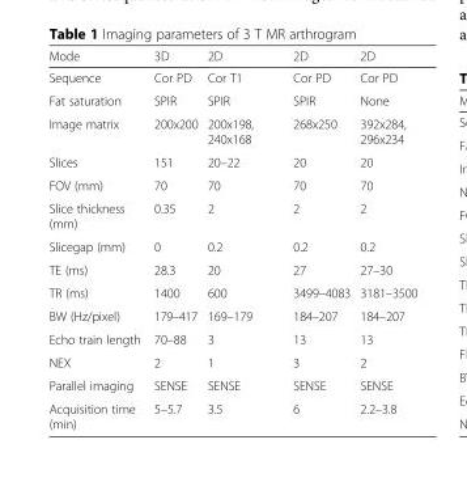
<table><thead><tr><td>Mode</td><td>3D</td><td>2D</td><td>2D</td><td>2D</td></tr></thead><tbody><tr><td>Sequence</td><td>Cor PD</td><td>Cor T1</td><td>Cor PD</td><td>Cor PD</td></tr><tr><td>Fat saturation</td><td>SPIR</td><td>SPIR</td><td>SPIR</td><td>None</td></tr><tr><td>Image matrix</td><td>200x200</td><td>200x198, 240x168</td><td>268x250</td><td>392x284, 296x234</td></tr><tr><td>Slices</td><td>151</td><td>20–22</td><td>20</td><td>20</td></tr><tr><td>FOV (mm)</td><td>70</td><td>70</td><td>70</td><td>70</td></tr><tr><td>Slice thickness (mm)</td><td>0.35</td><td>2</td><td>2</td><td>2</td></tr><tr><td>Slicegap (mm)</td><td>0</td><td>0.2</td><td>0.2</td><td>0.2</td></tr><tr><td>TE (ms)</td><td>28.3</td><td>20</td><td>27</td><td>27–30</td></tr><tr><td>TR (ms)</td><td>1400</td><td>600</td><td>3499–4083</td><td>3181–3500</td></tr><tr><td>BW (Hz/pixel)</td><td>179–417</td><td>169–179</td><td>184–207</td><td>184–207</td></tr><tr><td>Echo train length</td><td>70–88</td><td>3</td><td>13</td><td>13</td></tr><tr><td>NEX</td><td>2</td><td>1</td><td>3</td><td>2</td></tr><tr><td>Parallel imaging</td><td>SENSE</td><td>SENSE</td><td>SENSE</td><td>SENSE</td></tr><tr><td>Acquisition time (min)</td><td>5–5.7</td><td>3.5</td><td>6</td><td>2.2–3.8</td></tr></tbody></table>